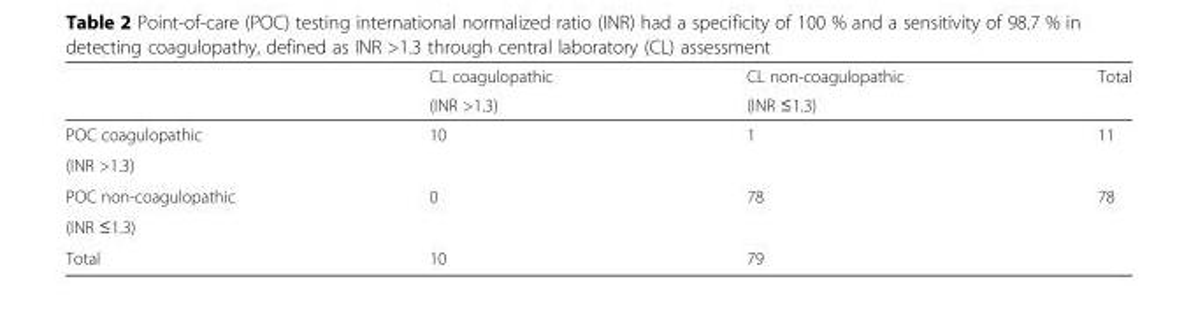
<table><thead><tr><td rowspan="2"></td><td rowspan="2">CL coagulopathic (INR &gt;1.3)</td><td rowspan="2">CL non-coagulopathic (INR ≤1.3)</td><td rowspan="2">Total</td></tr><tr></tr></thead><tbody><tr><td>POC coagulopathic</td><td rowspan="2">10</td><td rowspan="2">1</td><td rowspan="2">11</td></tr><tr><td>(INR &gt;1.3)</td></tr><tr><td>POC non-coagulopathic</td><td rowspan="2">0</td><td rowspan="2">78</td><td rowspan="2">78</td></tr><tr><td>(INR ≤1.3)</td></tr><tr><td>Total</td><td>10</td><td>79</td><td></td></tr></tbody></table>